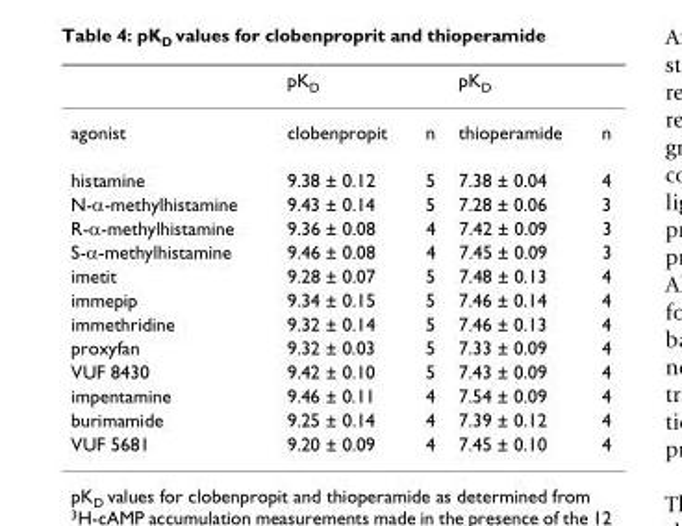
<table><thead><tr><td></td><td>pK<sub>D</sub></td><td></td><td>pK<sub>D</sub></td><td></td></tr></thead><tbody><tr><td>agonist</td><td>clobenpropit</td><td>n</td><td>thioperamide</td><td>n</td></tr><tr><td>histamine</td><td>9.38 ± 0.12</td><td>5</td><td>7.38 ± 0.04</td><td>4</td></tr><tr><td>N-α-methylhistamine</td><td>9.43 ± 0.14</td><td>5</td><td>7.28 ± 0.06</td><td>3</td></tr><tr><td>R-α-methylhistamine</td><td>9.36 ± 0.08</td><td>4</td><td>7.42 ± 0.09</td><td>3</td></tr><tr><td>S-α-methylhistamine</td><td>9.46 ± 0.08</td><td>4</td><td>7.45 ± 0.09</td><td>3</td></tr><tr><td>imetit</td><td>9.28 ± 0.07</td><td>5</td><td>7.48 ± 0.13</td><td>4</td></tr><tr><td>immepip</td><td>9.34 ± 0.15</td><td>5</td><td>7.46 ± 0.14</td><td>4</td></tr><tr><td>immethridine</td><td>9.32 ± 0.14</td><td>5</td><td>7.46 ± 0.13</td><td>4</td></tr><tr><td>proxyfan</td><td>9.32 ± 0.03</td><td>5</td><td>7.33 ± 0.09</td><td>4</td></tr><tr><td>VUF 8430</td><td>9.42 ± 0.10</td><td>5</td><td>7.43 ± 0.09</td><td>4</td></tr><tr><td>impentamine</td><td>9.46 ± 0.11</td><td>4</td><td>7.54 ± 0.09</td><td>4</td></tr><tr><td>burimamide</td><td>9.25 ± 0.14</td><td>4</td><td>7.39 ± 0.12</td><td>4</td></tr><tr><td>VUF 5681</td><td>9.20 ± 0.09</td><td>4</td><td>7.45 ± 0.10</td><td>4</td></tr></tbody></table>